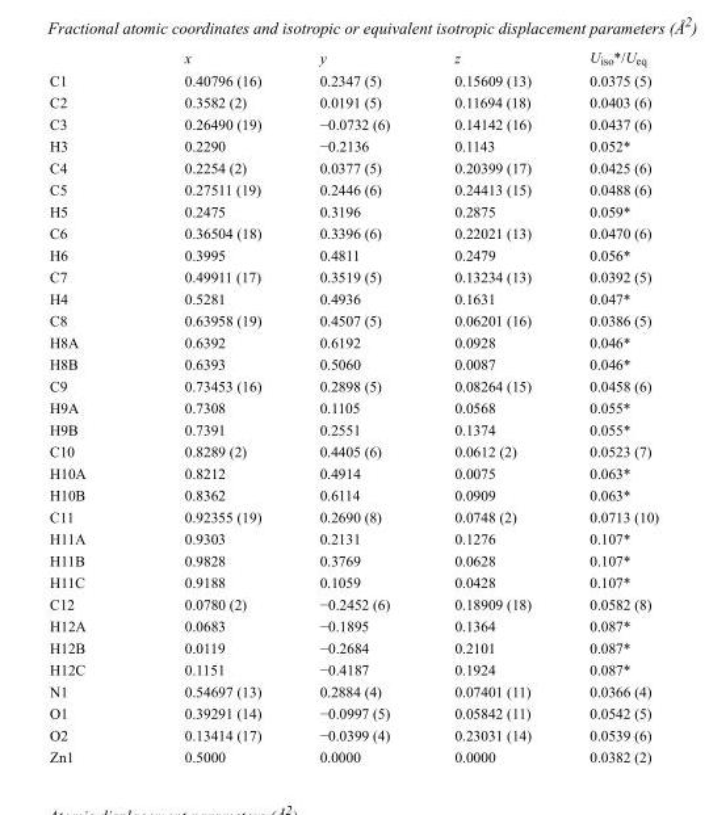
<table><thead><tr><td></td><td>x</td><td>y</td><td>z</td><td>U<sub>iso</sub>*/U<sub>eq</sub></td></tr></thead><tbody><tr><td>C1</td><td>0.40796 (16)</td><td>0.2347 (5)</td><td>0.15609 (13)</td><td>0.0375 (5)</td></tr><tr><td>C2</td><td>0.3582 (2)</td><td>0.0191 (5)</td><td>0.11694 (18)</td><td>0.0403 (6)</td></tr><tr><td>C3</td><td>0.26490 (19)</td><td>−0.0732 (6)</td><td>0.14142 (16)</td><td>0.0437 (6)</td></tr><tr><td>H3</td><td>0.2290</td><td>−0.2136</td><td>0.1143</td><td>0.052*</td></tr><tr><td>C4</td><td>0.2254 (2)</td><td>0.0377 (5)</td><td>0.20399 (17)</td><td>0.0425 (6)</td></tr><tr><td>C5</td><td>0.27511 (19)</td><td>0.2446 (6)</td><td>0.24413 (15)</td><td>0.0488 (6)</td></tr><tr><td>H5</td><td>0.2475</td><td>0.3196</td><td>0.2875</td><td>0.059*</td></tr><tr><td>C6</td><td>0.36504 (18)</td><td>0.3396 (6)</td><td>0.22021 (13)</td><td>0.0470 (6)</td></tr><tr><td>H6</td><td>0.3995</td><td>0.4811</td><td>0.2479</td><td>0.056*</td></tr><tr><td>C7</td><td>0.49911 (17)</td><td>0.3519 (5)</td><td>0.13234 (13)</td><td>0.0392 (5)</td></tr><tr><td>H4</td><td>0.5281</td><td>0.4936</td><td>0.1631</td><td>0.047*</td></tr><tr><td>C8</td><td>0.63958 (19)</td><td>0.4507 (5)</td><td>0.06201 (16)</td><td>0.0386 (5)</td></tr><tr><td>H8A</td><td>0.6392</td><td>0.6192</td><td>0.0928</td><td>0.046*</td></tr><tr><td>H8B</td><td>0.6393</td><td>0.5060</td><td>0.0087</td><td>0.046*</td></tr><tr><td>C9</td><td>0.73453 (16)</td><td>0.2898 (5)</td><td>0.08264 (15)</td><td>0.0458 (6)</td></tr><tr><td>H9A</td><td>0.7308</td><td>0.1105</td><td>0.0568</td><td>0.055*</td></tr><tr><td>H9B</td><td>0.7391</td><td>0.2551</td><td>0.1374</td><td>0.055*</td></tr><tr><td>C10</td><td>0.8289 (2)</td><td>0.4405 (6)</td><td>0.0612 (2)</td><td>0.0523 (7)</td></tr><tr><td>H10A</td><td>0.8212</td><td>0.4914</td><td>0.0075</td><td>0.063*</td></tr><tr><td>H10B</td><td>0.8362</td><td>0.6114</td><td>0.0909</td><td>0.063*</td></tr><tr><td>C11</td><td>0.92355 (19)</td><td>0.2690 (8)</td><td>0.0748 (2)</td><td>0.0713 (10)</td></tr><tr><td>H11A</td><td>0.9303</td><td>0.2131</td><td>0.1276</td><td>0.107*</td></tr><tr><td>H11B</td><td>0.9828</td><td>0.3769</td><td>0.0628</td><td>0.107*</td></tr><tr><td>H11C</td><td>0.9188</td><td>0.1059</td><td>0.0428</td><td>0.107*</td></tr><tr><td>C12</td><td>0.0780 (2)</td><td>−0.2452 (6)</td><td>0.18909 (18)</td><td>0.0582 (8)</td></tr><tr><td>H12A</td><td>0.0683</td><td>−0.1895</td><td>0.1364</td><td>0.087*</td></tr><tr><td>H12B</td><td>0.0119</td><td>−0.2684</td><td>0.2101</td><td>0.087*</td></tr><tr><td>H12C</td><td>0.1151</td><td>−0.4187</td><td>0.1924</td><td>0.087*</td></tr><tr><td>N1</td><td>0.54697 (13)</td><td>0.2884 (4)</td><td>0.07401 (11)</td><td>0.0366 (4)</td></tr><tr><td>O1</td><td>0.39291 (14)</td><td>−0.0997 (5)</td><td>0.05842 (11)</td><td>0.0542 (5)</td></tr><tr><td>O2</td><td>0.13414 (17)</td><td>−0.0399 (4)</td><td>0.23031 (14)</td><td>0.0539 (6)</td></tr><tr><td>Zn1</td><td>0.5000</td><td>0.0000</td><td>0.0000</td><td>0.0382 (2)</td></tr></tbody></table>